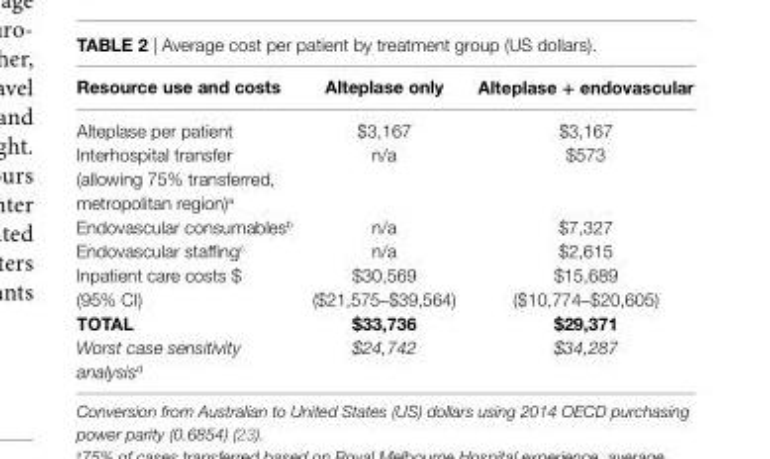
<table><thead><tr><td>resource use and costs</td><td>alteplase only</td><td>alteplase + endovascular</td></tr></thead><tbody><tr><td>Alteplase per patient</td><td>$3,167</td><td>$3,167</td></tr><tr><td>Interhospital transfer (allowing 75% transferred, metropolitan region)<sup>a</sup></td><td>n/a</td><td>$573</td></tr><tr><td>Endovascular consumables<sup>b</sup></td><td>n/a</td><td>$7,327</td></tr><tr><td>Endovascular staffing<sup>c</sup></td><td>n/a</td><td>$2,615</td></tr><tr><td>Inpatient care costs $ (95% CI)</td><td>$30,569 ($21,575–$39,564)</td><td>$15,689 ($10,774–$20,605)</td></tr><tr><td>TOTal</td><td>$33,736</td><td>$29,371</td></tr><tr><td>Worst case sensitivity analysis<sup>d</sup></td><td>$24,742</td><td>$34,287</td></tr></tbody></table>